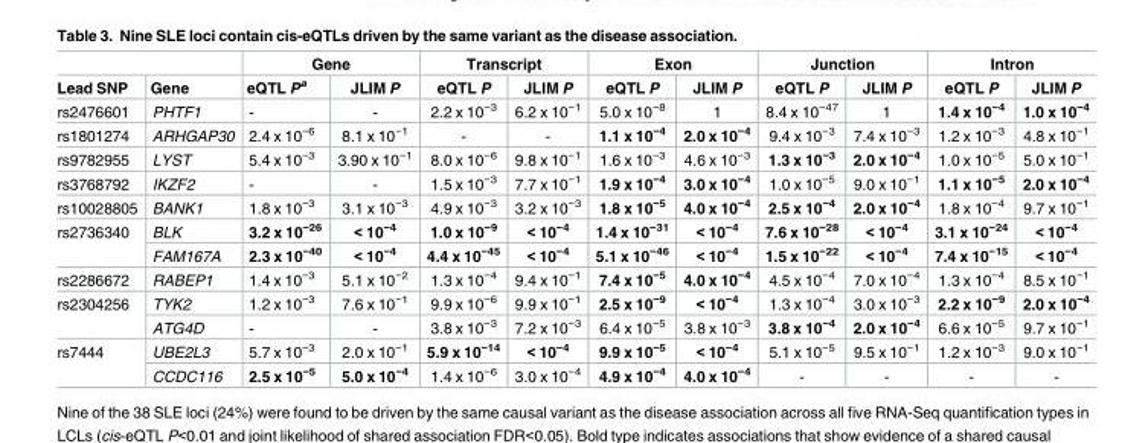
<table><thead><tr><td rowspan="2">Lead SNP</td><td rowspan="2">Gene</td><td colspan="2">Gene</td><td colspan="2">Transcript</td><td colspan="2">Exon</td><td colspan="2">Junction</td><td colspan="2">Intron</td></tr><tr><td>eQTL P<sup>a</sup></td><td>JLIM P</td><td>eQTL P</td><td>JLIM P</td><td>eQTL P</td><td>JLIM P</td><td>eQTL P</td><td>JLIM P</td><td>eQTL P</td><td>JLIM P</td></tr></thead><tbody><tr><td>rs2476601</td><td>PHTF1</td><td>-</td><td>-</td><td>2.2 x 10<sup>−3</sup></td><td>6.2 x 10<sup>−1</sup></td><td>5.0 x 10<sup>−8</sup></td><td>1</td><td>8.4 x 10<sup>−47</sup></td><td>1</td><td>1.4 x 10<sup>−4</sup></td><td>1.0 x 10<sup>−4</sup></td></tr><tr><td>rs1801274</td><td>ARHGAP30</td><td>2.4 x 10<sup>−6</sup></td><td>8.1 x 10<sup>−1</sup></td><td>-</td><td>-</td><td>1.1 x 10<sup>−4</sup></td><td>2.0 x 10<sup>−4</sup></td><td>9.4 x 10<sup>−3</sup></td><td>7.4 x 10<sup>−3</sup></td><td>1.2 x 10<sup>−3</sup></td><td>4.8 x 10<sup>−1</sup></td></tr><tr><td>rs9782955</td><td>LYST</td><td>5.4 x 10<sup>−3</sup></td><td>3.90 x 10<sup>−1</sup></td><td>8.0 x 10<sup>−6</sup></td><td>9.8 x 10<sup>−1</sup></td><td>1.6 x 10<sup>−3</sup></td><td>4.6 x 10<sup>−3</sup></td><td>1.3 x 10<sup>−3</sup></td><td>2.0 x 10<sup>−4</sup></td><td>1.0 x 10<sup>−5</sup></td><td>5.0 x 10<sup>−1</sup></td></tr><tr><td>rs3768792</td><td>IKZF2</td><td>-</td><td>-</td><td>1.5 x 10<sup>−3</sup></td><td>7.7 x 10<sup>−1</sup></td><td>1.9 x 10<sup>−4</sup></td><td>3.0 x 10<sup>−4</sup></td><td>1.0 x 10<sup>−5</sup></td><td>9.0 x 10<sup>−1</sup></td><td>1.1 x 10<sup>−5</sup></td><td>2.0 x 10<sup>−4</sup></td></tr><tr><td>rs10028805</td><td>BANK1</td><td>1.8 x 10<sup>−3</sup></td><td>3.1 x 10<sup>−3</sup></td><td>4.9 x 10<sup>−3</sup></td><td>3.2 x 10<sup>−3</sup></td><td>1.8 x 10<sup>−5</sup></td><td>4.0 x 10<sup>−4</sup></td><td>2.5 x 10<sup>−4</sup></td><td>2.0 x 10<sup>−4</sup></td><td>1.8 x 10<sup>−4</sup></td><td>9.7 x 10<sup>−1</sup></td></tr><tr><td rowspan="2">rs2736340</td><td>BLK</td><td>3.2 x 10<sup>−26</sup></td><td>&lt; 10<sup>−4</sup></td><td>1.0 x 10<sup>−9</sup></td><td>&lt; 10<sup>−4</sup></td><td>1.4 x 10<sup>−31</sup></td><td>&lt; 10<sup>−4</sup></td><td>7.6 x 10<sup>−28</sup></td><td>&lt; 10<sup>−4</sup></td><td>3.1 x 10<sup>−24</sup></td><td>&lt; 10<sup>−4</sup></td></tr><tr><td>FAM167A</td><td>2.3 x 10<sup>−40</sup></td><td>&lt; 10<sup>−4</sup></td><td>4.4 x 10<sup>−45</sup></td><td>&lt; 10<sup>−4</sup></td><td>5.1 x 10<sup>−46</sup></td><td>&lt; 10<sup>−4</sup></td><td>1.5 x 10<sup>−22</sup></td><td>&lt; 10<sup>−4</sup></td><td>7.4 x 10<sup>−15</sup></td><td>&lt; 10<sup>−4</sup></td></tr><tr><td>rs2286672</td><td>RABEP1</td><td>1.4 x 10<sup>−3</sup></td><td>5.1 x 10<sup>−2</sup></td><td>1.3 x 10<sup>−4</sup></td><td>9.4 x 10<sup>−1</sup></td><td>7.4 x 10<sup>−5</sup></td><td>4.0 x 10<sup>−4</sup></td><td>4.5 x 10<sup>−4</sup></td><td>7.0 x 10<sup>−4</sup></td><td>1.3 x 10<sup>−4</sup></td><td>8.5 x 10<sup>−1</sup></td></tr><tr><td rowspan="2">rs2304256</td><td>TYK2</td><td>1.2 x 10<sup>−3</sup></td><td>7.6 x 10<sup>−1</sup></td><td>9.9 x 10<sup>−6</sup></td><td>9.9 x 10<sup>−1</sup></td><td>2.5 x 10<sup>−9</sup></td><td>&lt; 10<sup>−4</sup></td><td>1.3 x 10<sup>−4</sup></td><td>3.0 x 10<sup>−3</sup></td><td>2.2 x 10<sup>−9</sup></td><td>2.0 x 10<sup>−4</sup></td></tr><tr><td>ATG4D</td><td>-</td><td>-</td><td>3.8 x 10<sup>−3</sup></td><td>7.2 x 10<sup>−3</sup></td><td>6.4 x 10<sup>−5</sup></td><td>3.8 x 10<sup>−3</sup></td><td>3.8 x 10<sup>−4</sup></td><td>2.0 x 10<sup>−4</sup></td><td>6.6 x 10<sup>−5</sup></td><td>9.7 x 10<sup>−1</sup></td></tr><tr><td rowspan="2">rs7444</td><td>UBE2L3</td><td>5.7 x 10<sup>−3</sup></td><td>2.0 x 10<sup>−1</sup></td><td>5.9 x 10<sup>−14</sup></td><td>&lt; 10<sup>−4</sup></td><td>9.9 x 10<sup>−5</sup></td><td>&lt; 10<sup>−4</sup></td><td>5.1 x 10<sup>−5</sup></td><td>9.5 x 10<sup>−1</sup></td><td>1.2 x 10<sup>−3</sup></td><td>9.0 x 10<sup>−1</sup></td></tr><tr><td>CCDC116</td><td>2.5 x 10<sup>−5</sup></td><td>5.0 x 10<sup>−4</sup></td><td>1.4 x 10<sup>−6</sup></td><td>3.0 x 10<sup>−4</sup></td><td>4.9 x 10<sup>−4</sup></td><td>4.0 x 10<sup>−4</sup></td><td>-</td><td>-</td><td>-</td><td>-</td></tr></tbody></table>